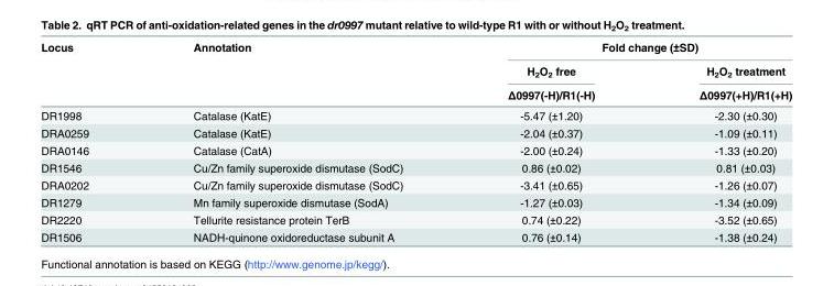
<table><thead><tr><td rowspan="3">Locus</td><td rowspan="3">Annotation</td><td colspan="2">Fold change (±SD)</td></tr><tr><td rowspan="2">H<sub>2</sub>O<sub>2</sub> free Δ0997(-H)/R1(-H)</td><td rowspan="2">H<sub>2</sub>O<sub>2</sub> treatment Δ0997(+H)/R1(+H)</td></tr><tr></tr></thead><tbody><tr><td>DR1998</td><td>Catalase (KatE)</td><td>-5.47 (±1.20)</td><td>-2.30 (±0.30)</td></tr><tr><td>DRA0259</td><td>Catalase (KatE)</td><td>-2.04 (±0.37)</td><td>-1.09 (±0.11)</td></tr><tr><td>DRA0146</td><td>Catalase (CatA)</td><td>-2.00 (±0.24)</td><td>-1.33 (±0.20)</td></tr><tr><td>DR1546</td><td>Cu/Zn family superoxide dismutase (SodC)</td><td>0.86 (±0.02)</td><td>0.81 (±0.03)</td></tr><tr><td>DRA0202</td><td>Cu/Zn family superoxide dismutase (SodC)</td><td>-3.41 (±0.65)</td><td>-1.26 (±0.07)</td></tr><tr><td>DR1279</td><td>Mn family superoxide dismutase (SodA)</td><td>-1.27 (±0.03)</td><td>-1.34 (±0.09)</td></tr><tr><td>DR2220</td><td>Tellurite resistance protein TerB</td><td>0.74 (±0.22)</td><td>-3.52 (±0.65)</td></tr><tr><td>DR1506</td><td>NADH-quinone oxidoreductase subunit A</td><td>0.76 (±0.14)</td><td>-1.38 (±0.24)</td></tr></tbody></table>